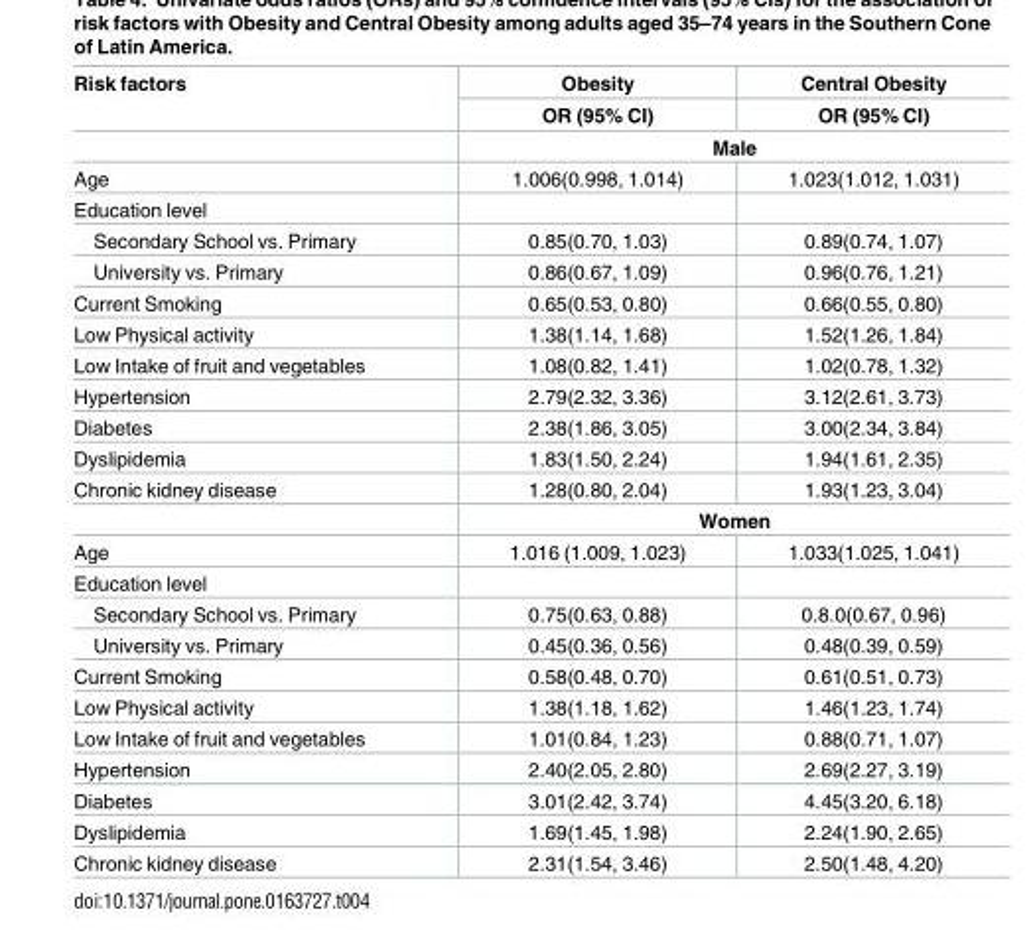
<table><thead><tr><td rowspan="2">Risk factors</td><td rowspan="2">Obesity OR (95% CI)</td><td rowspan="2">Central Obesity OR (95% CI)</td></tr><tr></tr></thead><tbody><tr><td></td><td colspan="2">Male</td></tr><tr><td>Age</td><td>1.006(0.998, 1.014)</td><td>1.023(1.012, 1.031)</td></tr><tr><td colspan="3">Education level</td></tr><tr><td>Secondary School vs. Primary</td><td>0.85(0.70, 1.03)</td><td>0.89(0.74, 1.07)</td></tr><tr><td>University vs. Primary</td><td>0.86(0.67, 1.09)</td><td>0.96(0.76, 1.21)</td></tr><tr><td>Current Smoking</td><td>0.65(0.53, 0.80)</td><td>0.66(0.55, 0.80)</td></tr><tr><td>Low Physical activity</td><td>1.38(1.14, 1.68)</td><td>1.52(1.26, 1.84)</td></tr><tr><td>Low Intake of fruit and vegetables</td><td>1.08(0.82, 1.41)</td><td>1.02(0.78, 1.32)</td></tr><tr><td>Hypertension</td><td>2.79(2.32, 3.36)</td><td>3.12(2.61, 3.73)</td></tr><tr><td>Diabetes</td><td>2.38(1.86, 3.05)</td><td>3.00(2.34, 3.84)</td></tr><tr><td>Dyslipidemia</td><td>1.83(1.50, 2.24)</td><td>1.94(1.61, 2.35)</td></tr><tr><td rowspan="2">Chronic kidney disease</td><td>1.28(0.80, 2.04)</td><td>1.93(1.23, 3.04)</td></tr><tr><td colspan="2">Women</td></tr><tr><td>Age</td><td>1.016 (1.009, 1.023)</td><td>1.033(1.025, 1.041)</td></tr><tr><td colspan="3">Education level</td></tr><tr><td>Secondary School vs. Primary</td><td>0.75(0.63, 0.88)</td><td>0.8.0(0.67, 0.96)</td></tr><tr><td>University vs. Primary</td><td>0.45(0.36, 0.56)</td><td>0.48(0.39, 0.59)</td></tr><tr><td>Current Smoking</td><td>0.58(0.48, 0.70)</td><td>0.61(0.51, 0.73)</td></tr><tr><td>Low Physical activity</td><td>1.38(1.18, 1.62)</td><td>1.46(1.23, 1.74)</td></tr><tr><td>Low Intake of fruit and vegetables</td><td>1.01(0.84, 1.23)</td><td>0.88(0.71, 1.07)</td></tr><tr><td>Hypertension</td><td>2.40(2.05, 2.80)</td><td>2.69(2.27, 3.19)</td></tr><tr><td>Diabetes</td><td>3.01(2.42, 3.74)</td><td>4.45(3.20, 6.18)</td></tr><tr><td>Dyslipidemia</td><td>1.69(1.45, 1.98)</td><td>2.24(1.90, 2.65)</td></tr><tr><td>Chronic kidney disease</td><td>2.31(1.54, 3.46)</td><td>2.50(1.48, 4.20)</td></tr></tbody></table>